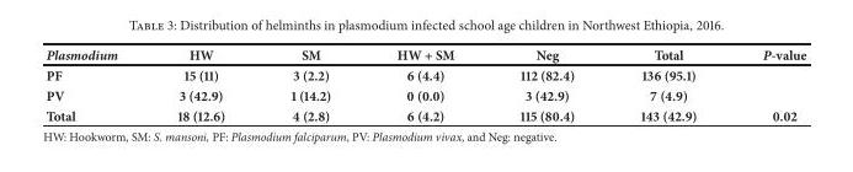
<table><thead><tr><td>Plasmodium</td><td>HW</td><td>SM</td><td>HW + SM</td><td>Neg</td><td>Total</td><td>P-value</td></tr></thead><tbody><tr><td>PF</td><td>15 (11)</td><td>3 (2.2)</td><td>6 (4.4)</td><td>112 (82.4)</td><td>136 (95.1)</td><td rowspan="2"></td></tr><tr><td>PV</td><td>3 (42.9)</td><td>1 (14.2)</td><td>0 (0.0)</td><td>3 (42.9)</td><td>7 (4.9)</td></tr><tr><td>Total</td><td>18 (12.6)</td><td>4 (2.8)</td><td>6 (4.2)</td><td>115 (80.4)</td><td>143 (42.9)</td><td>0.02</td></tr></tbody></table>